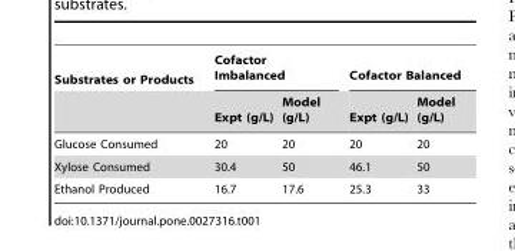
<table><thead><tr><td rowspan="2">Substrates or Products</td><td colspan="2">Cofactor Imbalanced</td><td colspan="2">Cofactor Balanced</td></tr><tr><td>Expt (g/L)</td><td>Model (g/L)</td><td>Expt (g/L)</td><td>Model (g/L)</td></tr></thead><tbody><tr><td>Glucose Consumed</td><td>20</td><td>20</td><td>20</td><td>20</td></tr><tr><td>Xylose Consumed</td><td>30.4</td><td>50</td><td>46.1</td><td>50</td></tr><tr><td>Ethanol Produced</td><td>16.7</td><td>17.6</td><td>25.3</td><td>33</td></tr></tbody></table>